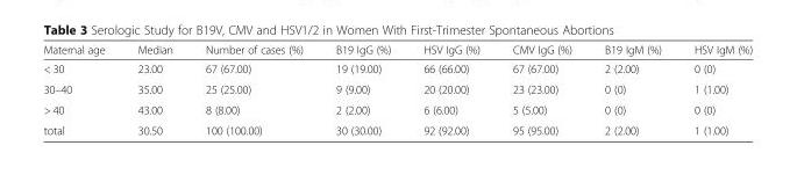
<table><thead><tr><td>Maternal age</td><td>Median</td><td>Number of cases (%)</td><td>B19 IgG (%)</td><td>HSV IgG (%)</td><td>CMV IgG (%)</td><td>B19 IgM (%)</td><td>HSV IgM (%)</td></tr></thead><tbody><tr><td>&lt; 30</td><td>23.00</td><td>67 (67.00)</td><td>19 (19.00)</td><td>66 (66.00)</td><td>67 (67.00)</td><td>2 (2.00)</td><td>0 (0)</td></tr><tr><td>30–40</td><td>35.00</td><td>25 (25.00)</td><td>9 (9.00)</td><td>20 (20.00)</td><td>23 (23.00)</td><td>0 (0)</td><td>1 (1.00)</td></tr><tr><td>&gt; 40</td><td>43.00</td><td>8 (8.00)</td><td>2 (2.00)</td><td>6 (6.00)</td><td>5 (5.00)</td><td>0 (0)</td><td>0 (0)</td></tr><tr><td>total</td><td>30.50</td><td>100 (100.00)</td><td>30 (30.00)</td><td>92 (92.00)</td><td>95 (95.00)</td><td>2 (2.00)</td><td>1 (1.00)</td></tr></tbody></table>